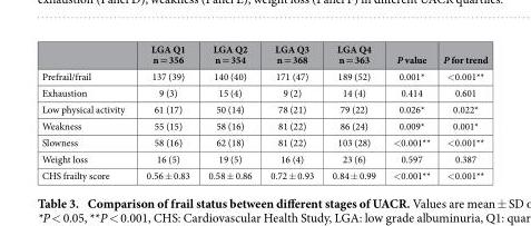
<table><thead><tr><td></td><td>LGA Q1 n = 356</td><td>LGA Q2 n = 354</td><td>LGA Q3 n = 368</td><td>LGA Q4 n = 363</td><td>P value</td><td>P for trend</td></tr></thead><tbody><tr><td>Prefrail/frail</td><td>137 (39)</td><td>140 (40)</td><td>171 (47)</td><td>189 (52)</td><td>0.001*</td><td>&lt; 0.001**</td></tr><tr><td>Exhaustion</td><td>9 (3)</td><td>15 (4)</td><td>9 (2)</td><td>14 (4)</td><td>0.414</td><td>0.601</td></tr><tr><td>Low physical activity</td><td>61 (17)</td><td>50 (14)</td><td>78 (21)</td><td>79 (22)</td><td>0.026*</td><td>0.022*</td></tr><tr><td>Weakness</td><td>55 (15)</td><td>58 (16)</td><td>81 (22)</td><td>86 (24)</td><td>0.009*</td><td>0.001*</td></tr><tr><td>Slowness</td><td>58 (16)</td><td>62 (18)</td><td>81 (22)</td><td>103 (28)</td><td>&lt; 0.001**</td><td>&lt; 0.001**</td></tr><tr><td>Weight loss</td><td>16 (5)</td><td>19 (5)</td><td>16 (4)</td><td>23 (6)</td><td>0.597</td><td>0.387</td></tr><tr><td>CHS frailty score</td><td>0.56 ± 0.83</td><td>0.58 ± 0.86</td><td>0.72 ± 0.93</td><td>0.84 ± 0.99</td><td>&lt; 0.001**</td><td>&lt; 0.001**</td></tr></tbody></table>